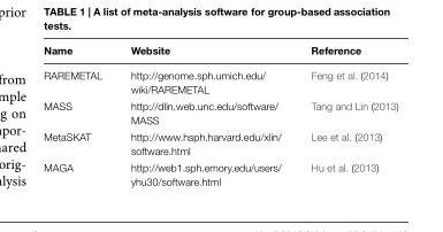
<table><thead><tr><td>Name</td><td>Website</td><td>Reference</td></tr></thead><tbody><tr><td>RAREMETAL</td><td>http://genome.sph.umich.edu/ wiki/RAREMETAL</td><td>Feng et al. (2014)</td></tr><tr><td>MASS</td><td>http://dlin.web.unc.edu/software/ MASS</td><td>Tang and Lin (2013)</td></tr><tr><td>MetaSKAT</td><td>http://www.hsph.harvard.edu/xlin/ software.html</td><td>Lee et al. (2013)</td></tr><tr><td>MAGA</td><td>http://web1.sph.emory.edu/users/ yhu30/software.html</td><td>Hu et al. (2013)</td></tr></tbody></table>